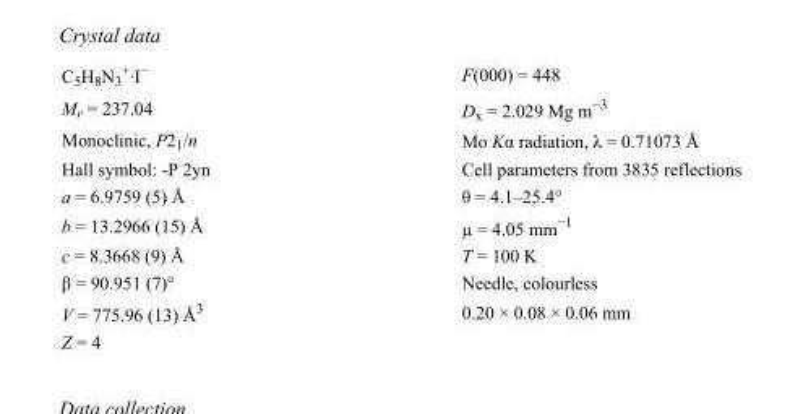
<table><tbody><tr><td>C<sub>5</sub>H<sub>8</sub>N<sub>3</sub> <sup>+</sup>·I<sup>−</sup></td><td>F(000) = 448</td></tr><tr><td>M<sub>r</sub> = 237.04</td><td>D<sub>x</sub> = 2.029 Mg m<sup>−3</sup></td></tr><tr><td>Monoclinic, P2<sub>1</sub>/n</td><td>Mo Kα radiation, λ = 0.71073 Å</td></tr><tr><td>Hall symbol: -P 2yn</td><td>Cell parameters from 3835 reflections</td></tr><tr><td>a = 6.9759 (5) Å</td><td>θ = 4.1–25.4°</td></tr><tr><td>b = 13.2966 (15) Å</td><td>µ = 4.05 mm<sup>−1</sup></td></tr><tr><td>c = 8.3668 (9) Å</td><td>T = 100 K</td></tr><tr><td>β = 90.951 (7)°</td><td>Needle, colourless</td></tr><tr><td>V = 775.96 (13) Å<sup>3</sup></td><td>0.20 × 0.08 × 0.06 mm</td></tr><tr><td>Z = 4</td><td></td></tr></tbody></table>